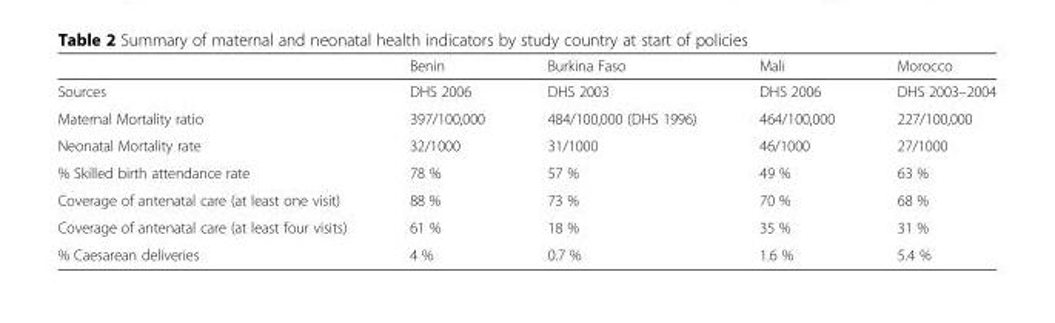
<table><thead><tr><td></td><td>Benin</td><td>Burkina Faso</td><td>Mali</td><td>Morocco</td></tr></thead><tbody><tr><td>Sources</td><td>DHS 2006</td><td>DHS 2003</td><td>DHS 2006</td><td>DHS 2003–2004</td></tr><tr><td>Maternal Mortality ratio</td><td>397/100,000</td><td>484/100,000 (DHS 1996)</td><td>464/100,000</td><td>227/100,000</td></tr><tr><td>Neonatal Mortality rate</td><td>32/1000</td><td>31/1000</td><td>46/1000</td><td>27/1000</td></tr><tr><td>% Skilled birth attendance rate</td><td>78 %</td><td>57 %</td><td>49 %</td><td>63 %</td></tr><tr><td>Coverage of antenatal care (at least one visit)</td><td>88 %</td><td>73 %</td><td>70 %</td><td>68 %</td></tr><tr><td>Coverage of antenatal care (at least four visits)</td><td>61 %</td><td>18 %</td><td>35 %</td><td>31 %</td></tr><tr><td>% Caesarean deliveries</td><td>4 %</td><td>0.7 %</td><td>1.6 %</td><td>5.4 %</td></tr></tbody></table>